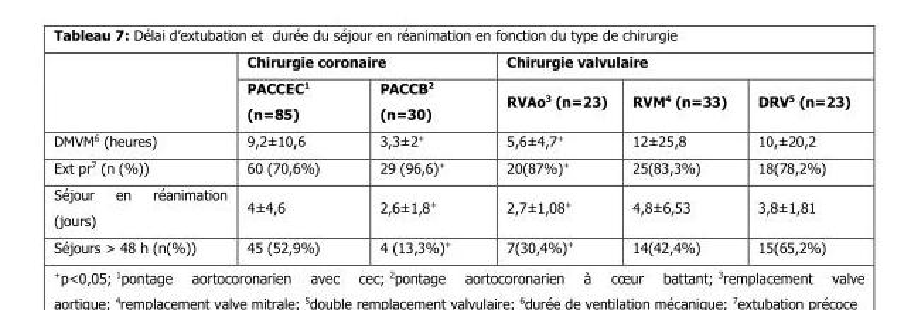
<table><thead><tr><td rowspan="2"></td><td colspan="2">Chirurgie coronaire</td><td colspan="3">Chirurgie valvulaire</td></tr><tr><td>PACCEC<sup>1</sup> (n=85)</td><td>PACCB<sup>2</sup> (n=30)</td><td>RVAo<sup>3</sup> (n=23)</td><td>RVM<sup>4</sup> (n=33)</td><td>DRV<sup>5</sup> (n=23)</td></tr></thead><tbody><tr><td>DMVM<sup>6</sup> (heures)</td><td>9,2±10,6</td><td>3,3±2<sup>+</sup></td><td>5,6±4,7<sup>+</sup></td><td>12±25,8</td><td>10,±20,2</td></tr><tr><td>Ext pr<sup>7</sup> (n (%))</td><td>60 (70,6%)</td><td>29 (96,6)<sup>+</sup></td><td>20(87%)<sup>+</sup></td><td>25(83,3%)</td><td>18(78,2%)</td></tr><tr><td>Séjour en réanimation (jours)</td><td>4±4,6</td><td>2,6±1,8<sup>+</sup></td><td>2,7±1,08<sup>+</sup></td><td>4,8±6,53</td><td>3,8±1,81</td></tr><tr><td>Séjours &gt; 48 h (n(%))</td><td>45 (52,9%)</td><td>4 (13,3%)<sup>+</sup></td><td>7(30,4%)<sup>+</sup></td><td>14(42,4%)</td><td>15(65,2%)</td></tr></tbody></table>